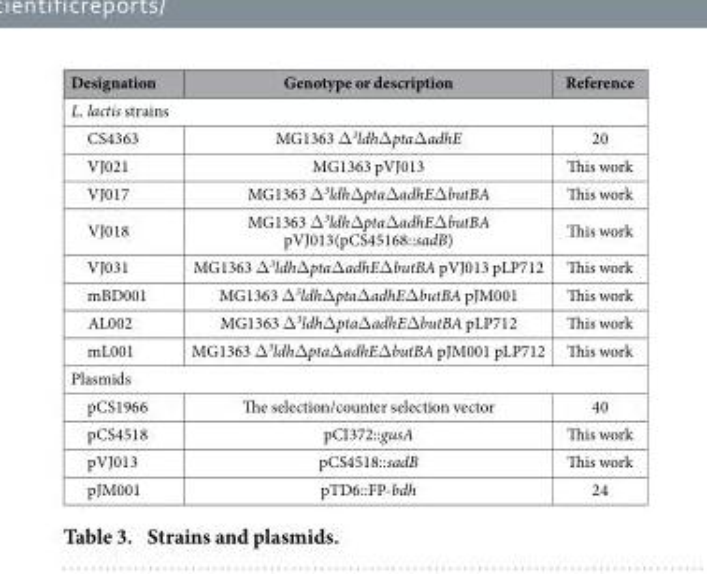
<table><thead><tr><td>Designation</td><td>Genotype or description</td><td>Reference</td></tr></thead><tbody><tr><td colspan="3">L. lactis strains</td></tr><tr><td>CS4363</td><td>MG1363 Δ <sup>3</sup>ldhΔ ptaΔ adhE</td><td>20</td></tr><tr><td>VJ021</td><td>MG1363 pVJ013</td><td>This work</td></tr><tr><td>VJ017</td><td>MG1363 Δ <sup>3</sup>ldhΔ ptaΔ adhEΔ butBA</td><td>This work</td></tr><tr><td>VJ018</td><td>MG1363 Δ <sup>3</sup>ldhΔ ptaΔ adhEΔ butBA pVJ013(pCS45168::sadB)</td><td>This work</td></tr><tr><td>VJ031</td><td>MG1363 Δ <sup>3</sup>ldhΔ ptaΔ adhEΔ butBA pVJ013 pLP712</td><td>This work</td></tr><tr><td>mBD001</td><td>MG1363 Δ <sup>3</sup>ldhΔ ptaΔ adhEΔ butBA pJM001</td><td>This work</td></tr><tr><td>AL002</td><td>MG1363 Δ <sup>3</sup>ldhΔ ptaΔ adhEΔ butBA pLP712</td><td>This work</td></tr><tr><td>mL001</td><td>MG1363 Δ <sup>3</sup>ldhΔ ptaΔ adhEΔ butBA pJM001 pLP712</td><td>This work</td></tr><tr><td colspan="3">Plasmids</td></tr><tr><td>pCS1966</td><td>The selection/counter selection vector</td><td>40</td></tr><tr><td>pCS4518</td><td>pCI372::gusA</td><td>This work</td></tr><tr><td>pVJ013</td><td>pCS4518::sadB</td><td>This work</td></tr><tr><td>pJM001</td><td>pTD6::FP-bdh</td><td>24</td></tr></tbody></table>